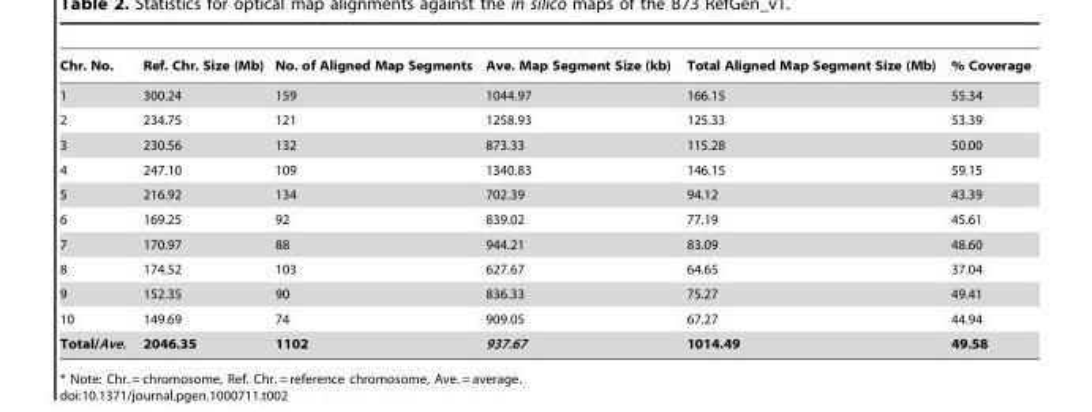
<table><thead><tr><td>Chr. No.</td><td>Ref. Chr. Size (Mb)</td><td>No. of Aligned Map Segments</td><td>Ave. Map Segment Size (kb)</td><td>Total Aligned Map Segment Size (Mb)</td><td>% Coverage</td></tr></thead><tbody><tr><td>1</td><td>300.24</td><td>159</td><td>1044.97</td><td>166.15</td><td>55.34</td></tr><tr><td>2</td><td>234.75</td><td>121</td><td>1258.93</td><td>125.33</td><td>53.39</td></tr><tr><td>3</td><td>230.56</td><td>132</td><td>873.33</td><td>115.28</td><td>50.00</td></tr><tr><td>4</td><td>247.10</td><td>109</td><td>1340.83</td><td>146.15</td><td>59.15</td></tr><tr><td>5</td><td>216.92</td><td>134</td><td>702.39</td><td>94.12</td><td>43.39</td></tr><tr><td>6</td><td>169.25</td><td>92</td><td>839.02</td><td>77.19</td><td>45.61</td></tr><tr><td>7</td><td>170.97</td><td>88</td><td>944.21</td><td>83.09</td><td>48.60</td></tr><tr><td>8</td><td>174.52</td><td>103</td><td>627.67</td><td>64.65</td><td>37.04</td></tr><tr><td>9</td><td>152.35</td><td>90</td><td>836.33</td><td>75.27</td><td>49.41</td></tr><tr><td>10</td><td>149.69</td><td>74</td><td>909.05</td><td>67.27</td><td>44.94</td></tr><tr><td>Total/Ave.</td><td>2046.35</td><td>1102</td><td>937.67</td><td>1014.49</td><td>49.58</td></tr></tbody></table>